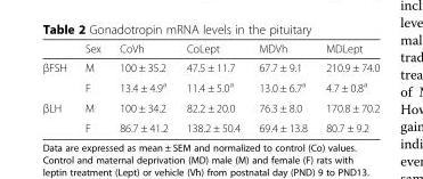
<table><thead><tr><td></td><td>Sex</td><td>CoVh</td><td>CoLept</td><td>MDVh</td><td>MDLept</td></tr></thead><tbody><tr><td rowspan="2">βFSH</td><td>M</td><td>100 ± 35.2</td><td>47.5 ± 11.7</td><td>67.7 ± 9.1</td><td>210.9 ± 74.0</td></tr><tr><td>F</td><td>13.4 ± 4.9<sup>a</sup></td><td>11.4 ± 5.0<sup>a</sup></td><td>13.0 ± 6.7<sup>a</sup></td><td>4.7 ± 0.8<sup>a</sup></td></tr><tr><td rowspan="2">βLH</td><td>M</td><td>100 ± 34.2</td><td>82.2 ± 20.0</td><td>76.3 ± 8.0</td><td>170.8 ± 70.2</td></tr><tr><td>F</td><td>86.7 ± 41.2</td><td>138.2 ± 50.4</td><td>69.4 ± 13.8</td><td>80.7 ± 9.2</td></tr></tbody></table>